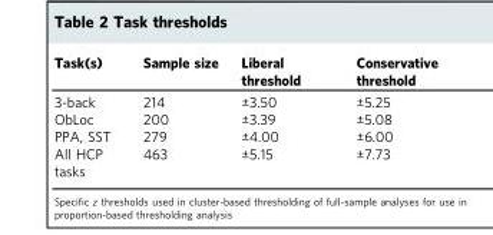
<table><thead><tr><td>Task(s)</td><td>Sample size</td><td>Liberal threshold</td><td>Conservative threshold</td></tr></thead><tbody><tr><td>3-back</td><td>214</td><td>±3.50</td><td>±5.25</td></tr><tr><td>ObLoc</td><td>200</td><td>±3.39</td><td>±5.08</td></tr><tr><td>PPA, SST</td><td>279</td><td>±4.00</td><td>±6.00</td></tr><tr><td>All HCP tasks</td><td>463</td><td>±5.15</td><td>±7.73</td></tr></tbody></table>